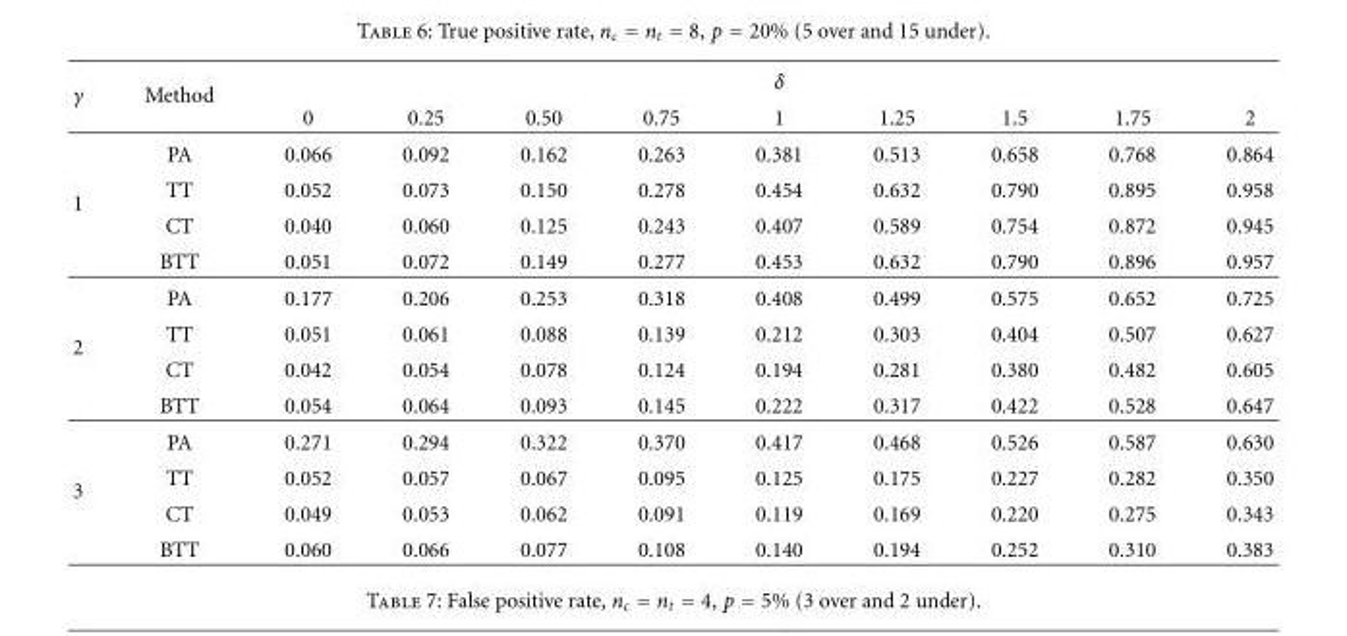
<table><thead><tr><td rowspan="2">γ</td><td rowspan="2">Method</td><td colspan="9">δ</td></tr><tr><td>0</td><td>0.25</td><td>0.50</td><td>0.75</td><td>1</td><td>1.25</td><td>1.5</td><td>1.75</td><td>2</td></tr></thead><tbody><tr><td rowspan="4">1</td><td>PA</td><td>0.066</td><td>0.092</td><td>0.162</td><td>0.263</td><td>0.381</td><td>0.513</td><td>0.658</td><td>0.768</td><td>0.864</td></tr><tr><td>TT</td><td>0.052</td><td>0.073</td><td>0.150</td><td>0.278</td><td>0.454</td><td>0.632</td><td>0.790</td><td>0.895</td><td>0.958</td></tr><tr><td>CT</td><td>0.040</td><td>0.060</td><td>0.125</td><td>0.243</td><td>0.407</td><td>0.589</td><td>0.754</td><td>0.872</td><td>0.945</td></tr><tr><td>BTT</td><td>0.051</td><td>0.072</td><td>0.149</td><td>0.277</td><td>0.453</td><td>0.632</td><td>0.790</td><td>0.896</td><td>0.957</td></tr><tr><td rowspan="4">2</td><td>PA</td><td>0.177</td><td>0.206</td><td>0.253</td><td>0.318</td><td>0.408</td><td>0.499</td><td>0.575</td><td>0.652</td><td>0.725</td></tr><tr><td>TT</td><td>0.051</td><td>0.061</td><td>0.088</td><td>0.139</td><td>0.212</td><td>0.303</td><td>0.404</td><td>0.507</td><td>0.627</td></tr><tr><td>CT</td><td>0.042</td><td>0.054</td><td>0.078</td><td>0.124</td><td>0.194</td><td>0.281</td><td>0.380</td><td>0.482</td><td>0.605</td></tr><tr><td>BTT</td><td>0.054</td><td>0.064</td><td>0.093</td><td>0.145</td><td>0.222</td><td>0.317</td><td>0.422</td><td>0.528</td><td>0.647</td></tr><tr><td rowspan="4">3</td><td>PA</td><td>0.271</td><td>0.294</td><td>0.322</td><td>0.370</td><td>0.417</td><td>0.468</td><td>0.526</td><td>0.587</td><td>0.630</td></tr><tr><td>TT</td><td>0.052</td><td>0.057</td><td>0.067</td><td>0.095</td><td>0.125</td><td>0.175</td><td>0.227</td><td>0.282</td><td>0.350</td></tr><tr><td>CT</td><td>0.049</td><td>0.053</td><td>0.062</td><td>0.091</td><td>0.119</td><td>0.169</td><td>0.220</td><td>0.275</td><td>0.343</td></tr><tr><td>BTT</td><td>0.060</td><td>0.066</td><td>0.077</td><td>0.108</td><td>0.140</td><td>0.194</td><td>0.252</td><td>0.310</td><td>0.383</td></tr></tbody></table>